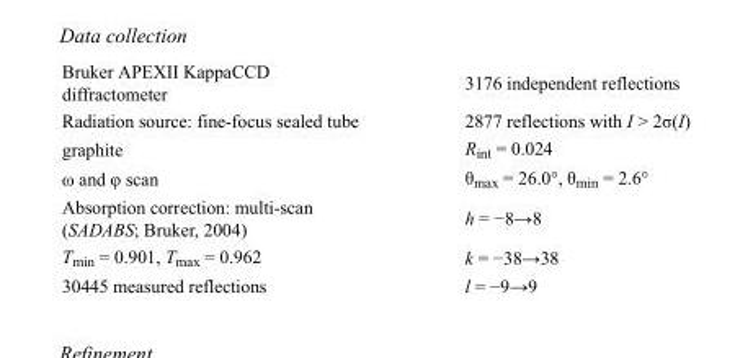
<table><tbody><tr><td>Bruker APEXII KappaCCD diffractometer</td><td>3176 independent reflections</td></tr><tr><td>Radiation source: fine-focus sealed tube</td><td>2877 reflections with I &gt; 2σ(I)</td></tr><tr><td>graphite</td><td>R<sub>int</sub> = 0.024</td></tr><tr><td>ω and φ scan</td><td>θ<sub>max</sub> = 26.0°, θ<sub>min</sub> = 2.6°</td></tr><tr><td>Absorption correction: multi-scan (SADABS; Bruker, 2004)</td><td>h = −8→8</td></tr><tr><td>T<sub>min</sub> = 0.901, T<sub>max</sub> = 0.962</td><td>k = −38→38</td></tr><tr><td>30445 measured reflections</td><td>l = −9→9</td></tr></tbody></table>